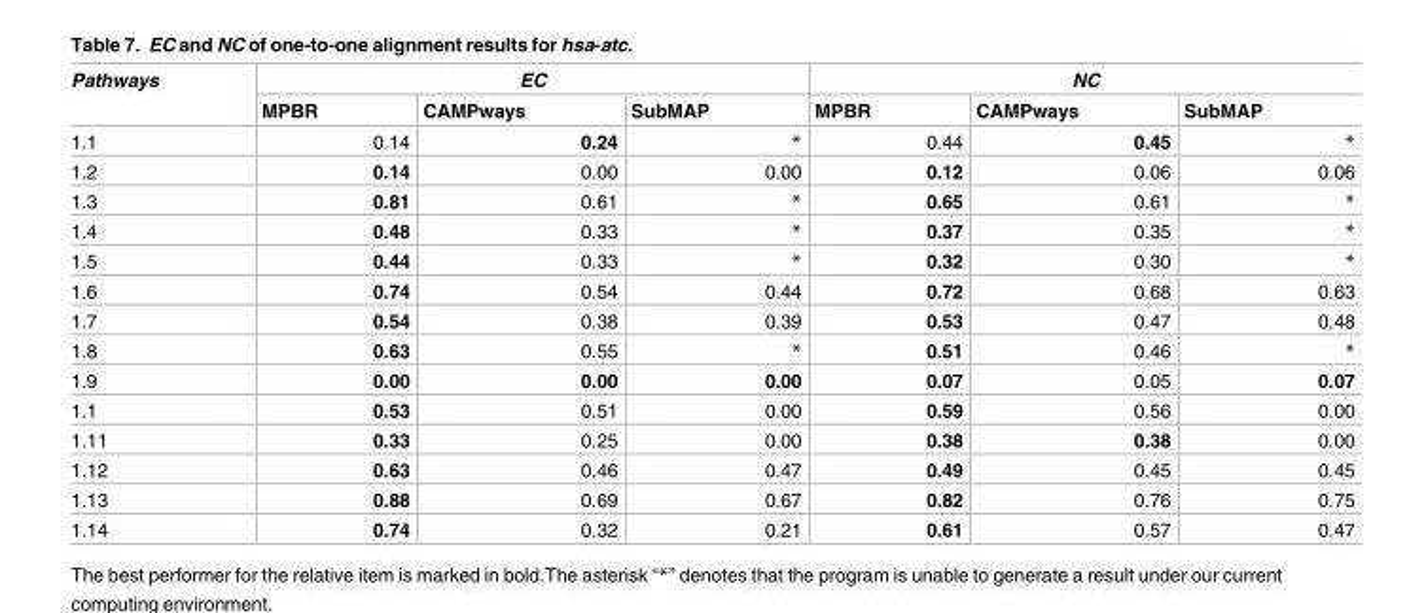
<table><thead><tr><td rowspan="2">Pathways</td><td colspan="3">EC</td><td colspan="3">NC</td></tr><tr><td>MPBR</td><td>CAMPways</td><td>SubMAP</td><td>MPBR</td><td>CAMPways</td><td>SubMAP</td></tr></thead><tbody><tr><td>1.1</td><td>0.14</td><td>0.24</td><td>*</td><td>0.44</td><td>0.45</td><td>*</td></tr><tr><td>1.2</td><td>0.14</td><td>0.00</td><td>0.00</td><td>0.12</td><td>0.06</td><td>0.06</td></tr><tr><td>1.3</td><td>0.81</td><td>0.61</td><td>*</td><td>0.65</td><td>0.61</td><td>*</td></tr><tr><td>1.4</td><td>0.48</td><td>0.33</td><td>*</td><td>0.37</td><td>0.35</td><td>*</td></tr><tr><td>1.5</td><td>0.44</td><td>0.33</td><td>*</td><td>0.32</td><td>0.30</td><td>*</td></tr><tr><td>1.6</td><td>0.74</td><td>0.54</td><td>0.44</td><td>0.72</td><td>0.68</td><td>0.63</td></tr><tr><td>1.7</td><td>0.54</td><td>0.38</td><td>0.39</td><td>0.53</td><td>0.47</td><td>0.48</td></tr><tr><td>1.8</td><td>0.63</td><td>0.55</td><td>*</td><td>0.51</td><td>0.46</td><td>*</td></tr><tr><td>1.9</td><td>0.00</td><td>0.00</td><td>0.00</td><td>0.07</td><td>0.05</td><td>0.07</td></tr><tr><td>1.1</td><td>0.53</td><td>0.51</td><td>0.00</td><td>0.59</td><td>0.56</td><td>0.00</td></tr><tr><td>1.11</td><td>0.33</td><td>0.25</td><td>0.00</td><td>0.38</td><td>0.38</td><td>0.00</td></tr><tr><td>1.12</td><td>0.63</td><td>0.46</td><td>0.47</td><td>0.49</td><td>0.45</td><td>0.45</td></tr><tr><td>1.13</td><td>0.88</td><td>0.69</td><td>0.67</td><td>0.82</td><td>0.76</td><td>0.75</td></tr><tr><td>1.14</td><td>0.74</td><td>0.32</td><td>0.21</td><td>0.61</td><td>0.57</td><td>0.47</td></tr></tbody></table>